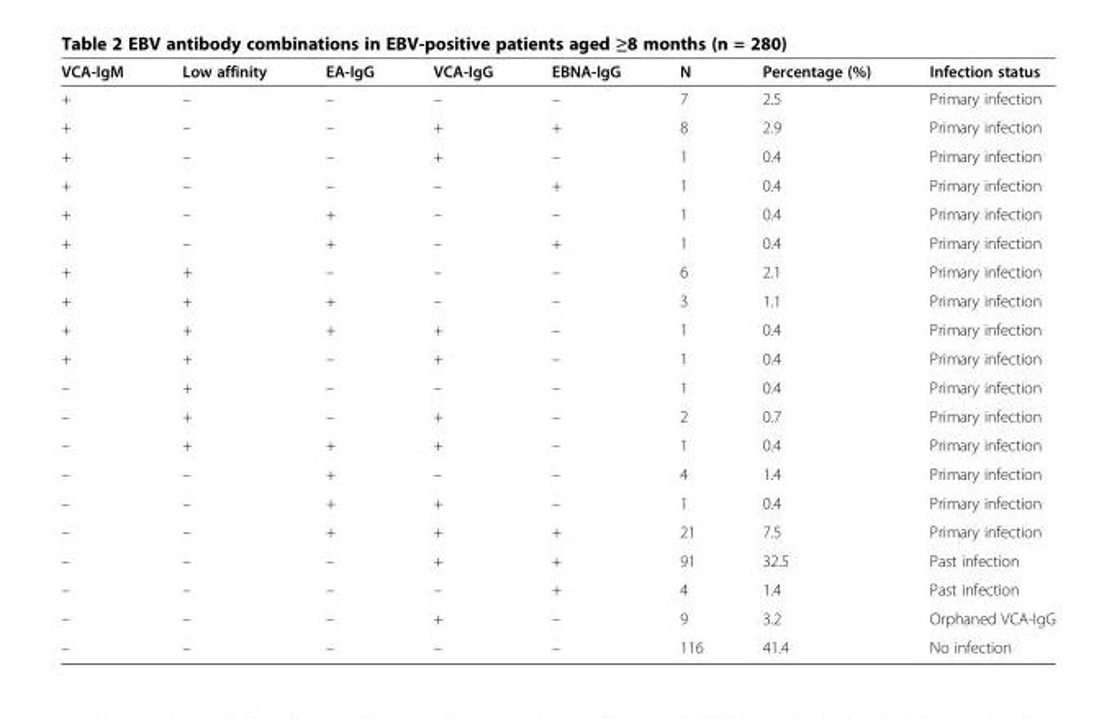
<table><thead><tr><td>VCA-IgM</td><td>Low affinity</td><td>EA-IgG</td><td>VCA-IgG</td><td>EBNA-IgG</td><td>N</td><td>Percentage (%)</td><td>Infection status</td></tr></thead><tbody><tr><td>+</td><td>–</td><td>–</td><td>–</td><td>–</td><td>7</td><td>2.5</td><td>Primary infection</td></tr><tr><td>+</td><td>–</td><td>–</td><td>+</td><td>+</td><td>8</td><td>2.9</td><td>Primary infection</td></tr><tr><td>+</td><td>–</td><td>–</td><td>+</td><td>–</td><td>1</td><td>0.4</td><td>Primary infection</td></tr><tr><td>+</td><td>–</td><td>–</td><td>–</td><td>+</td><td>1</td><td>0.4</td><td>Primary infection</td></tr><tr><td>+</td><td>–</td><td>+</td><td>–</td><td>–</td><td>1</td><td>0.4</td><td>Primary infection</td></tr><tr><td>+</td><td>–</td><td>+</td><td>–</td><td>+</td><td>1</td><td>0.4</td><td>Primary infection</td></tr><tr><td>+</td><td>+</td><td>–</td><td>–</td><td>–</td><td>6</td><td>2.1</td><td>Primary infection</td></tr><tr><td>+</td><td>+</td><td>+</td><td>–</td><td>–</td><td>3</td><td>1.1</td><td>Primary infection</td></tr><tr><td>+</td><td>+</td><td>+</td><td>+</td><td>–</td><td>1</td><td>0.4</td><td>Primary infection</td></tr><tr><td>+</td><td>+</td><td>–</td><td>+</td><td>–</td><td>1</td><td>0.4</td><td>Primary infection</td></tr><tr><td>–</td><td>+</td><td>–</td><td>–</td><td>–</td><td>1</td><td>0.4</td><td>Primary infection</td></tr><tr><td>–</td><td>+</td><td>–</td><td>+</td><td>–</td><td>2</td><td>0.7</td><td>Primary infection</td></tr><tr><td>–</td><td>+</td><td>+</td><td>+</td><td>–</td><td>1</td><td>0.4</td><td>Primary infection</td></tr><tr><td>–</td><td>–</td><td>+</td><td>–</td><td>–</td><td>4</td><td>1.4</td><td>Primary infection</td></tr><tr><td>–</td><td>–</td><td>+</td><td>+</td><td>–</td><td>1</td><td>0.4</td><td>Primary infection</td></tr><tr><td>–</td><td>–</td><td>+</td><td>+</td><td>+</td><td>21</td><td>7.5</td><td>Primary infection</td></tr><tr><td>–</td><td>–</td><td>–</td><td>+</td><td>+</td><td>91</td><td>32.5</td><td>Past infection</td></tr><tr><td>–</td><td>–</td><td>–</td><td>–</td><td>+</td><td>4</td><td>1.4</td><td>Past infection</td></tr><tr><td>–</td><td>–</td><td>–</td><td>+</td><td>–</td><td>9</td><td>3.2</td><td>Orphaned VCA-IgG</td></tr><tr><td>–</td><td>–</td><td>–</td><td>–</td><td>–</td><td>116</td><td>41.4</td><td>No infection</td></tr></tbody></table>